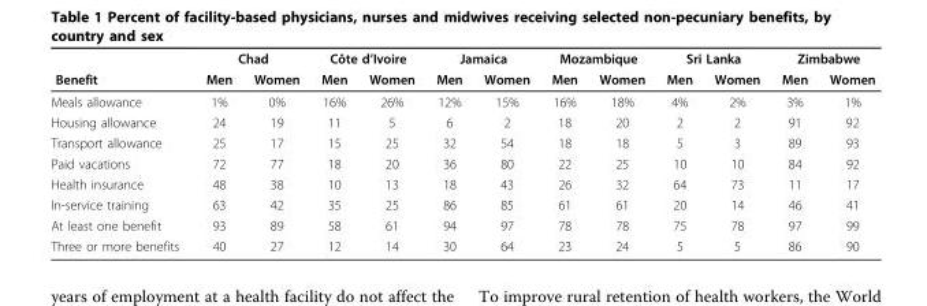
<table><thead><tr><td rowspan="2">Benefit</td><td colspan="2">Chad</td><td colspan="2">Côte d’Ivoire</td><td colspan="2">Jamaica</td><td colspan="2">Mozambique</td><td colspan="2">Sri Lanka</td><td colspan="2">Zimbabwe</td></tr><tr><td>Men</td><td>Women</td><td>Men</td><td>Women</td><td>Men</td><td>Women</td><td>Men</td><td>Women</td><td>Men</td><td>Women</td><td>Men</td><td>Women</td></tr></thead><tbody><tr><td>Meals allowance</td><td>1%</td><td>0%</td><td>16%</td><td>26%</td><td>12%</td><td>15%</td><td>16%</td><td>18%</td><td>4%</td><td>2%</td><td>3%</td><td>1%</td></tr><tr><td>Housing allowance</td><td>24</td><td>19</td><td>11</td><td>5</td><td>6</td><td>2</td><td>18</td><td>20</td><td>2</td><td>2</td><td>91</td><td>92</td></tr><tr><td>Transport allowance</td><td>25</td><td>17</td><td>15</td><td>25</td><td>32</td><td>54</td><td>18</td><td>18</td><td>5</td><td>3</td><td>89</td><td>93</td></tr><tr><td>Paid vacations</td><td>72</td><td>77</td><td>18</td><td>20</td><td>36</td><td>80</td><td>22</td><td>25</td><td>10</td><td>10</td><td>84</td><td>92</td></tr><tr><td>Health insurance</td><td>48</td><td>38</td><td>10</td><td>13</td><td>18</td><td>43</td><td>26</td><td>32</td><td>64</td><td>73</td><td>11</td><td>17</td></tr><tr><td>In-service training</td><td>63</td><td>42</td><td>35</td><td>25</td><td>86</td><td>85</td><td>61</td><td>61</td><td>20</td><td>14</td><td>46</td><td>41</td></tr><tr><td>At least one benefit</td><td>93</td><td>89</td><td>58</td><td>61</td><td>94</td><td>97</td><td>78</td><td>78</td><td>75</td><td>78</td><td>97</td><td>99</td></tr><tr><td>Three or more benefits</td><td>40</td><td>27</td><td>12</td><td>14</td><td>30</td><td>64</td><td>23</td><td>24</td><td>5</td><td>5</td><td>86</td><td>90</td></tr></tbody></table>